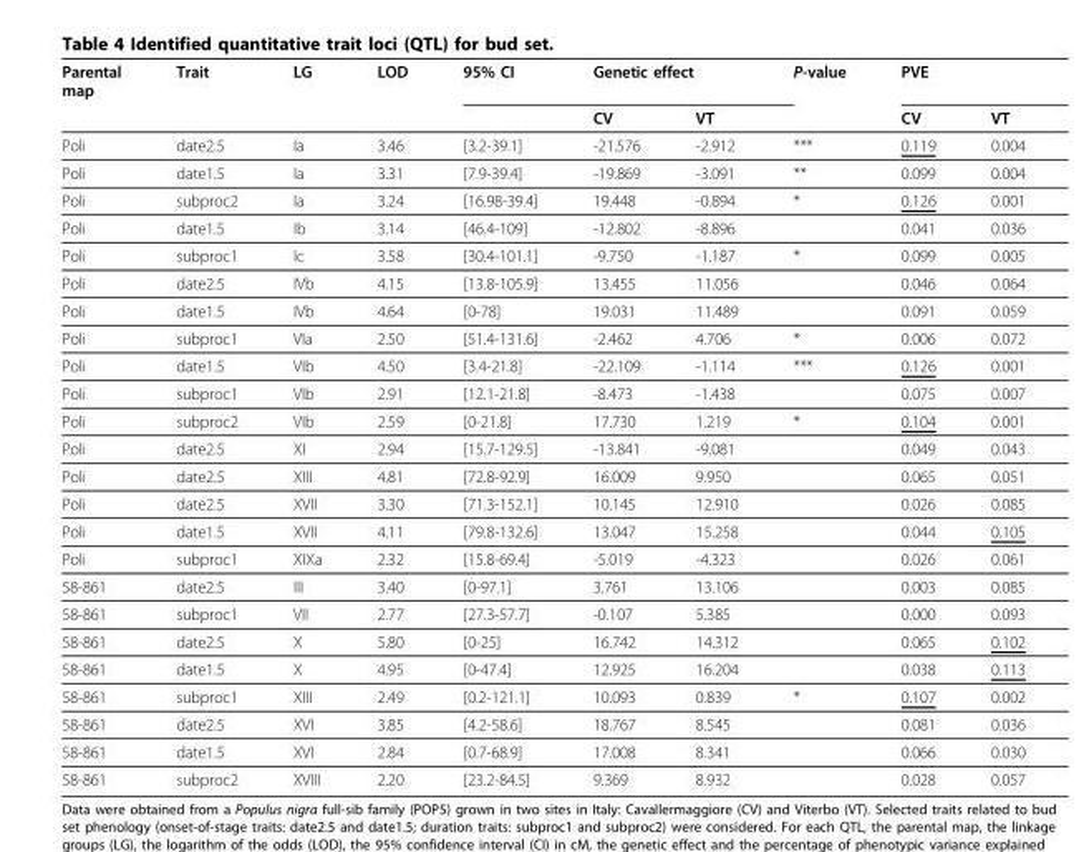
<table><thead><tr><td rowspan="2">Parental map</td><td rowspan="2">Trait</td><td rowspan="2">LG</td><td rowspan="2">LOD</td><td rowspan="2">95% CI</td><td colspan="2">Genetic effect</td><td rowspan="2">P-value</td><td colspan="2">PVE</td></tr><tr><td>CV</td><td>VT</td><td>CV</td><td>VT</td></tr></thead><tbody><tr><td>Poli</td><td>date2.5</td><td>Ia</td><td>3.46</td><td>[3.2-39.1]</td><td>-21.576</td><td>-2.912</td><td>***</td><td>0.119</td><td>0.004</td></tr><tr><td>Poli</td><td>date1.5</td><td>Ia</td><td>3.31</td><td>[7.9-39.4]</td><td>-19.869</td><td>-3.091</td><td>**</td><td>0.099</td><td>0.004</td></tr><tr><td>Poli</td><td>subproc2</td><td>Ia</td><td>3.24</td><td>[16.98-39.4]</td><td>19.448</td><td>-0.894</td><td>*</td><td>0.126</td><td>0.001</td></tr><tr><td>Poli</td><td>date1.5</td><td>Ib</td><td>3.14</td><td>[46.4-109]</td><td>-12.802</td><td>-8.896</td><td></td><td>0.041</td><td>0.036</td></tr><tr><td>Poli</td><td>subproc1</td><td>Ic</td><td>3.58</td><td>[30.4-101.1]</td><td>-9.750</td><td>-1.187</td><td>*</td><td>0.099</td><td>0.005</td></tr><tr><td>Poli</td><td>date2.5</td><td>IVb</td><td>4.15</td><td>[13.8-105.9]</td><td>13.455</td><td>11.056</td><td></td><td>0.046</td><td>0.064</td></tr><tr><td>Poli</td><td>date1.5</td><td>IVb</td><td>4.64</td><td>[0-78]</td><td>19.031</td><td>11.489</td><td></td><td>0.091</td><td>0.059</td></tr><tr><td>Poli</td><td>subproc1</td><td>VIa</td><td>2.50</td><td>[51.4-131.6]</td><td>-2.462</td><td>4.706</td><td>*</td><td>0.006</td><td>0.072</td></tr><tr><td>Poli</td><td>date1.5</td><td>VIb</td><td>4.50</td><td>[3.4-21.8]</td><td>-22.109</td><td>-1.114</td><td>***</td><td>0.126</td><td>0.001</td></tr><tr><td>Poli</td><td>subproc1</td><td>VIb</td><td>2.91</td><td>[12.1-21.8]</td><td>-8.473</td><td>-1.438</td><td></td><td>0.075</td><td>0.007</td></tr><tr><td>Poli</td><td>subproc2</td><td>VIb</td><td>2.59</td><td>[0-21.8]</td><td>17.730</td><td>1.219</td><td>*</td><td>0.104</td><td>0.001</td></tr><tr><td>Poli</td><td>date2.5</td><td>XI</td><td>2.94</td><td>[15.7-129.5]</td><td>-13.841</td><td>-9.081</td><td></td><td>0.049</td><td>0.043</td></tr><tr><td>Poli</td><td>date2.5</td><td>XIII</td><td>4.81</td><td>[72.8-92.9]</td><td>16.009</td><td>9.950</td><td></td><td>0.065</td><td>0.051</td></tr><tr><td>Poli</td><td>date2.5</td><td>XVII</td><td>3.30</td><td>[71.3-152.1]</td><td>10.145</td><td>12.910</td><td></td><td>0.026</td><td>0.085</td></tr><tr><td>Poli</td><td>date1.5</td><td>XVII</td><td>4.11</td><td>[79.8-132.6]</td><td>13.047</td><td>15.258</td><td></td><td>0.044</td><td>0.105</td></tr><tr><td>Poli</td><td>subproc1</td><td>XIXa</td><td>2.32</td><td>[15.8-69.4]</td><td>-5.019</td><td>-4.323</td><td></td><td>0.026</td><td>0.061</td></tr><tr><td>58-861</td><td>date2.5</td><td>III</td><td>3.40</td><td>[0-97.1]</td><td>3.761</td><td>13.106</td><td></td><td>0.003</td><td>0.085</td></tr><tr><td>58-861</td><td>subproc1</td><td>VII</td><td>2.77</td><td>[27.3-57.7]</td><td>-0.107</td><td>5.385</td><td></td><td>0.000</td><td>0.093</td></tr><tr><td>58-861</td><td>date2.5</td><td>X</td><td>5.80</td><td>[0-25]</td><td>16.742</td><td>14.312</td><td></td><td>0.065</td><td>0.102</td></tr><tr><td>58-861</td><td>date1.5</td><td>X</td><td>4.95</td><td>[0-47.4]</td><td>12.925</td><td>16.204</td><td></td><td>0.038</td><td>0.113</td></tr><tr><td>58-861</td><td>subproc1</td><td>XIII</td><td>2.49</td><td>[0.2-121.1]</td><td>10.093</td><td>0.839</td><td>*</td><td>0.107</td><td>0.002</td></tr><tr><td>58-861</td><td>date2.5</td><td>XVI</td><td>3.85</td><td>[4.2-58.6]</td><td>18.767</td><td>8.545</td><td></td><td>0.081</td><td>0.036</td></tr><tr><td>58-861</td><td>date1.5</td><td>XVI</td><td>2.84</td><td>[0.7-68.9]</td><td>17.008</td><td>8.341</td><td></td><td>0.066</td><td>0.030</td></tr><tr><td>58-861</td><td>subproc2</td><td>XVIII</td><td>2.20</td><td>[23.2-84.5]</td><td>9.369</td><td>8.932</td><td></td><td>0.028</td><td>0.057</td></tr></tbody></table>